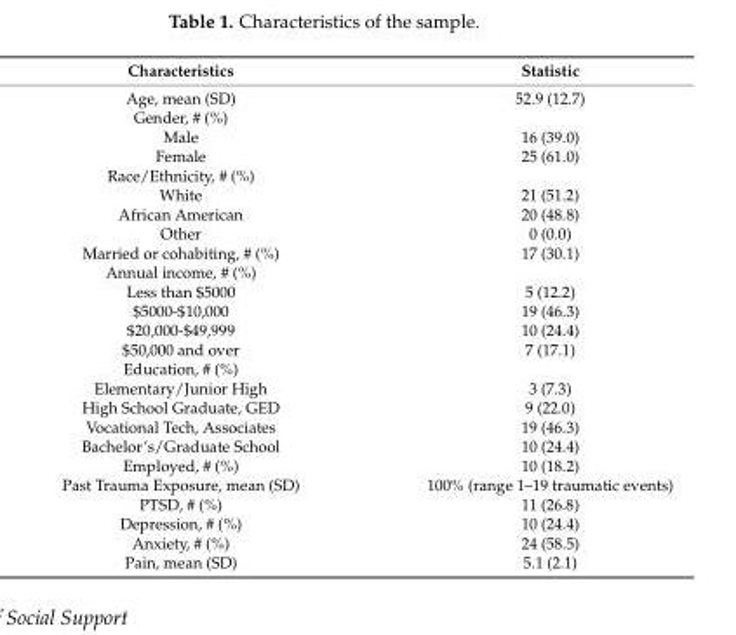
<table><thead><tr><td>Characteristics</td><td>Statistic</td></tr></thead><tbody><tr><td>Age, mean (SD)</td><td>52.9 (12.7)</td></tr><tr><td colspan="2">Gender, # (%)</td></tr><tr><td>Male</td><td>16 (39.0)</td></tr><tr><td>Female</td><td>25 (61.0)</td></tr><tr><td colspan="2">Race/Ethnicity, # (%)</td></tr><tr><td>White</td><td>21 (51.2)</td></tr><tr><td>African American</td><td>20 (48.8)</td></tr><tr><td>Other</td><td>0 (0.0)</td></tr><tr><td>Married or cohabiting, # (%)</td><td>17 (30.1)</td></tr><tr><td colspan="2">Annual income, # (%)</td></tr><tr><td>Less than $5000</td><td>5 (12.2)</td></tr><tr><td>$5000-$10,000</td><td>19 (46.3)</td></tr><tr><td>$20,000-$49,999</td><td>10 (24.4)</td></tr><tr><td>$50,000 and over</td><td>7 (17.1)</td></tr><tr><td colspan="2">Education, # (%)</td></tr><tr><td>Elementary/Junior High</td><td>3 (7.3)</td></tr><tr><td>High School Graduate, GED</td><td>9 (22.0)</td></tr><tr><td>Vocational Tech, Associates</td><td>19 (46.3)</td></tr><tr><td>Bachelor’s/Graduate School</td><td>10 (24.4)</td></tr><tr><td>Employed, # (%)</td><td>10 (18.2)</td></tr><tr><td>Past Trauma Exposure, mean (SD)</td><td>100% (range 1–19 traumatic events)</td></tr><tr><td>PTSD, # (%)</td><td>11 (26.8)</td></tr><tr><td>Depression, # (%)</td><td>10 (24.4)</td></tr><tr><td>Anxiety, # (%)</td><td>24 (58.5)</td></tr><tr><td>Pain, mean (SD)</td><td>5.1 (2.1)</td></tr></tbody></table>